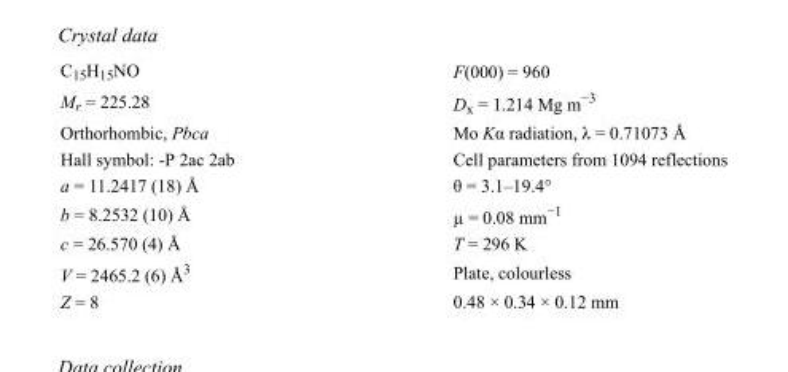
<table><tbody><tr><td>C<sub>15</sub>H<sub>15</sub>NO</td><td>F(000) = 960</td></tr><tr><td>M<sub>r</sub> = 225.28</td><td>D<sub>x</sub> = 1.214 Mg m<sup>−3</sup></td></tr><tr><td>Orthorhombic, Pbca</td><td>Mo Kα radiation, λ = 0.71073 Å</td></tr><tr><td>Hall symbol: -P 2ac 2ab</td><td>Cell parameters from 1094 reflections</td></tr><tr><td>a = 11.2417 (18) Å</td><td>θ = 3.1–19.4°</td></tr><tr><td>b = 8.2532 (10) Å</td><td>µ = 0.08 mm<sup>−1</sup></td></tr><tr><td>c = 26.570 (4) Å</td><td>T = 296 K</td></tr><tr><td>V = 2465.2 (6) Å<sup>3</sup></td><td>Plate, colourless</td></tr><tr><td>Z = 8</td><td>0.48 × 0.34 × 0.12 mm</td></tr></tbody></table>